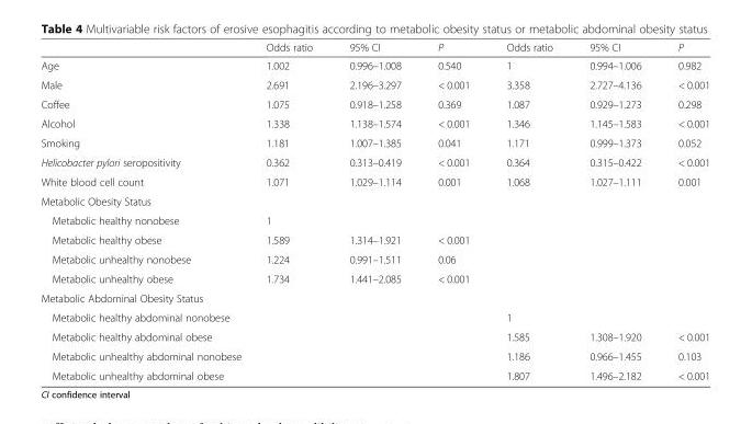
<table><thead><tr><td></td><td>Odds ratio</td><td>95% CI</td><td>P</td><td>Odds ratio</td><td>95% CI</td><td>P</td></tr></thead><tbody><tr><td>Age</td><td>1.002</td><td>0.996–1.008</td><td>0.540</td><td>1</td><td>0.994–1.006</td><td>0.982</td></tr><tr><td>Male</td><td>2.691</td><td>2.196–3.297</td><td>&lt; 0.001</td><td>3.358</td><td>2.727–4.136</td><td>&lt; 0.001</td></tr><tr><td>Coffee</td><td>1.075</td><td>0.918–1.258</td><td>0.369</td><td>1.087</td><td>0.929–1.273</td><td>0.298</td></tr><tr><td>Alcohol</td><td>1.338</td><td>1.138–1.574</td><td>&lt; 0.001</td><td>1.346</td><td>1.145–1.583</td><td>&lt; 0.001</td></tr><tr><td>Smoking</td><td>1.181</td><td>1.007–1.385</td><td>0.041</td><td>1.171</td><td>0.999–1.373</td><td>0.052</td></tr><tr><td>Helicobacter pylori seropositivity</td><td>0.362</td><td>0.313–0.419</td><td>&lt; 0.001</td><td>0.364</td><td>0.315–0.422</td><td>&lt; 0.001</td></tr><tr><td>White blood cell count</td><td>1.071</td><td>1.029–1.114</td><td>0.001</td><td>1.068</td><td>1.027–1.111</td><td>0.001</td></tr><tr><td colspan="7">Metabolic Obesity Status</td></tr><tr><td>Metabolic healthy nonobese</td><td>1</td><td></td><td></td><td rowspan="4"></td><td></td><td rowspan="4"></td></tr><tr><td>Metabolic healthy obese</td><td>1.589</td><td>1.314–1.921</td><td>&lt; 0.001</td><td></td></tr><tr><td>Metabolic unhealthy nonobese</td><td>1.224</td><td>0.991–1.511</td><td>0.06</td><td></td></tr><tr><td>Metabolic unhealthy obese</td><td>1.734</td><td>1.441–2.085</td><td>&lt; 0.001</td><td></td></tr><tr><td colspan="7">Metabolic Abdominal Obesity Status</td></tr><tr><td>Metabolic healthy abdominal nonobese</td><td></td><td></td><td></td><td>1</td><td></td><td></td></tr><tr><td>Metabolic healthy abdominal obese</td><td></td><td></td><td></td><td>1.585</td><td>1.308–1.920</td><td>&lt; 0.001</td></tr><tr><td colspan="2">Metabolic unhealthy abdominal nonobese</td><td></td><td></td><td>1.186</td><td>0.966–1.455</td><td>0.103</td></tr><tr><td>Metabolic unhealthy abdominal obese</td><td></td><td></td><td></td><td>1.807</td><td>1.496–2.182</td><td>&lt; 0.001</td></tr></tbody></table>